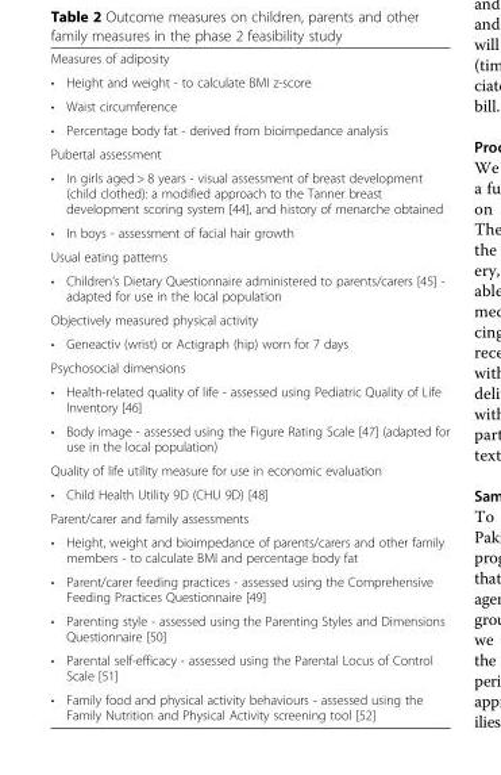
<table><tbody><tr><td colspan="2">Measures of adiposity</td></tr><tr><td>•</td><td>Height and weight - to calculate BMI z-score</td></tr><tr><td>•</td><td>Waist circumference</td></tr><tr><td>•</td><td>Percentage body fat - derived from bioimpedance analysis</td></tr><tr><td colspan="2">Pubertal assessment</td></tr><tr><td>•</td><td>In girls aged &gt; 8 years - visual assessment of breast development (child clothed): a modified approach to the Tanner breast development scoring system [44], and history of menarche obtained</td></tr><tr><td>•</td><td>In boys - assessment of facial hair growth</td></tr><tr><td colspan="2">Usual eating patterns</td></tr><tr><td>•</td><td>Children’s Dietary Questionnaire administered to parents/carers [45] - adapted for use in the local population</td></tr><tr><td colspan="2">Objectively measured physical activity</td></tr><tr><td>•</td><td>Geneactiv (wrist) or Actigraph (hip) worn for 7 days</td></tr><tr><td colspan="2">Psychosocial dimensions</td></tr><tr><td>•</td><td>Health-related quality of life - assessed using Pediatric Quality of Life Inventory [46]</td></tr><tr><td>•</td><td>Body image - assessed using the Figure Rating Scale [47] (adapted for use in the local population)</td></tr><tr><td colspan="2">Quality of life utility measure for use in economic evaluation</td></tr><tr><td>•</td><td>Child Health Utility 9D (CHU 9D) [48]</td></tr><tr><td colspan="2">Parent/carer and family assessments</td></tr><tr><td>•</td><td>Height, weight and bioimpedance of parents/carers and other family members - to calculate BMI and percentage body fat</td></tr><tr><td>•</td><td>Parent/carer feeding practices - assessed using the Comprehensive Feeding Practices Questionnaire [49]</td></tr><tr><td>•</td><td>Parenting style - assessed using the Parenting Styles and Dimensions Questionnaire [50]</td></tr><tr><td>•</td><td>Parental self-efficacy - assessed using the Parental Locus of Control Scale [51]</td></tr><tr><td>•</td><td>Family food and physical activity behaviours - assessed using the Family Nutrition and Physical Activity screening tool [52]</td></tr></tbody></table>